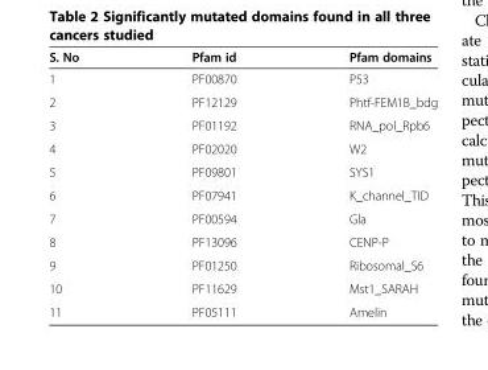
<table><thead><tr><td>S. No</td><td>Pfam id</td><td>Pfam domains</td></tr></thead><tbody><tr><td>1</td><td>PF00870</td><td>P53</td></tr><tr><td>2</td><td>PF12129</td><td>Phtf-FEM1B_bdg</td></tr><tr><td>3</td><td>PF01192</td><td>RNA_pol_Rpb6</td></tr><tr><td>4</td><td>PF02020</td><td>W2</td></tr><tr><td>5</td><td>PF09801</td><td>SYS1</td></tr><tr><td>6</td><td>PF07941</td><td>K_channel_TID</td></tr><tr><td>7</td><td>PF00594</td><td>Gla</td></tr><tr><td>8</td><td>PF13096</td><td>CENP-P</td></tr><tr><td>9</td><td>PF01250</td><td>Ribosomal_S6</td></tr><tr><td>10</td><td>PF11629</td><td>Mst1_SARAH</td></tr><tr><td>11</td><td>PF05111</td><td>Amelin</td></tr></tbody></table>